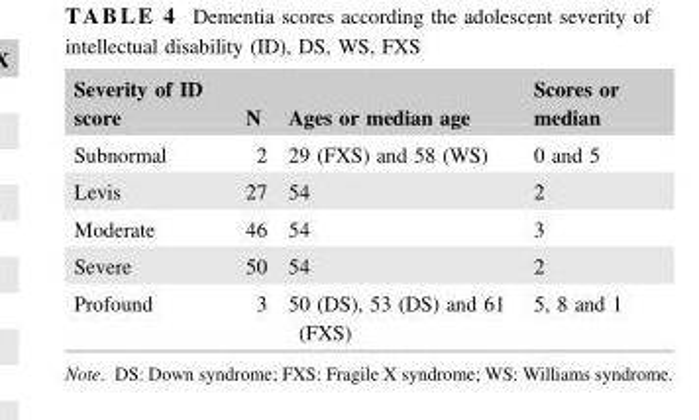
<table><thead><tr><td>Severity of ID score</td><td>N</td><td>Ages or median age</td><td>Scores or median</td></tr></thead><tbody><tr><td>Subnormal</td><td>2</td><td>29 (FXS) and 58 (WS)</td><td>0 and 5</td></tr><tr><td>Levis</td><td>27</td><td>54</td><td>2</td></tr><tr><td>Moderate</td><td>46</td><td>54</td><td>3</td></tr><tr><td>Severe</td><td>50</td><td>54</td><td>2</td></tr><tr><td>Profound</td><td>3</td><td>50 (DS), 53 (DS) and 61 (FXS)</td><td>5, 8 and 1</td></tr></tbody></table>